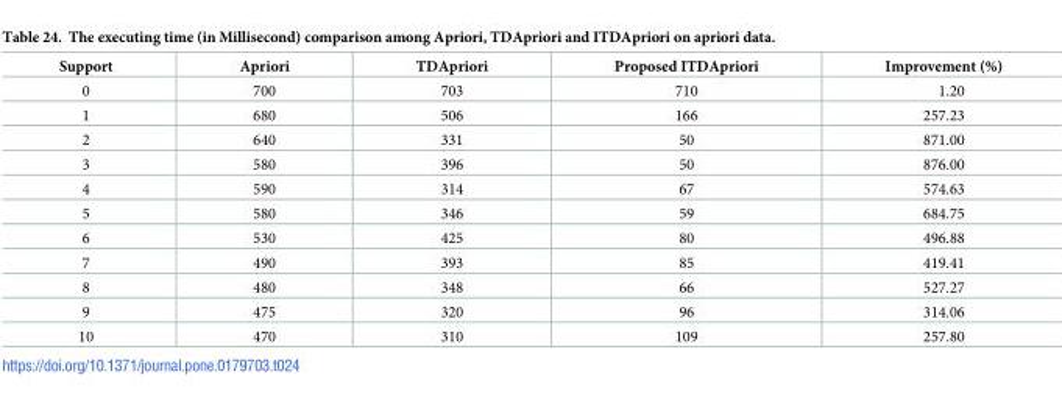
<table><thead><tr><td>Support</td><td>Apriori</td><td>TDApriori</td><td>Proposed ITDApriori</td><td>Improvement (%)</td></tr></thead><tbody><tr><td>0</td><td>700</td><td>703</td><td>710</td><td>1.20</td></tr><tr><td>1</td><td>680</td><td>506</td><td>166</td><td>257.23</td></tr><tr><td>2</td><td>640</td><td>331</td><td>50</td><td>871.00</td></tr><tr><td>3</td><td>580</td><td>396</td><td>50</td><td>876.00</td></tr><tr><td>4</td><td>590</td><td>314</td><td>67</td><td>574.63</td></tr><tr><td>5</td><td>580</td><td>346</td><td>59</td><td>684.75</td></tr><tr><td>6</td><td>530</td><td>425</td><td>80</td><td>496.88</td></tr><tr><td>7</td><td>490</td><td>393</td><td>85</td><td>419.41</td></tr><tr><td>8</td><td>480</td><td>348</td><td>66</td><td>527.27</td></tr><tr><td>9</td><td>475</td><td>320</td><td>96</td><td>314.06</td></tr><tr><td>10</td><td>470</td><td>310</td><td>109</td><td>257.80</td></tr></tbody></table>